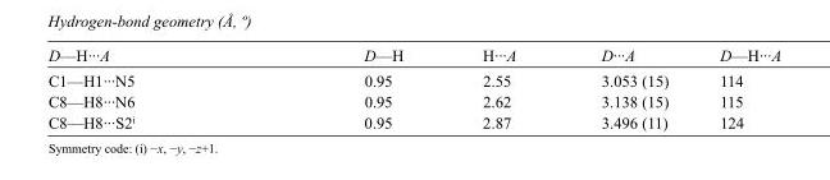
<table><tbody><tr><td>D—H···A</td><td>D—H</td><td>H···A</td><td>D···A</td><td>D—H···A</td></tr><tr><td>C1—H1···N5</td><td>0.95</td><td>2.55</td><td>3.053 (15)</td><td>114</td></tr><tr><td>C8—H8···N6</td><td>0.95</td><td>2.62</td><td>3.138 (15)</td><td>115</td></tr><tr><td>C8—H8···S2<sup>i</sup></td><td>0.95</td><td>2.87</td><td>3.496 (11)</td><td>124</td></tr></tbody></table>